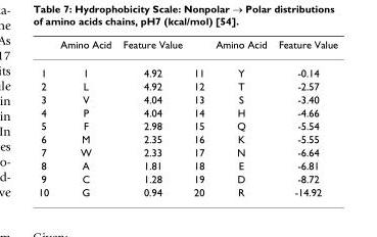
<table><thead><tr><td></td><td>Amino Acid</td><td>Feature Value</td><td></td><td>Amino Acid</td><td>Feature Value</td></tr></thead><tbody><tr><td>1</td><td>I</td><td>4.92</td><td>11</td><td>Y</td><td>-0.14</td></tr><tr><td>2</td><td>L</td><td>4.92</td><td>12</td><td>T</td><td>-2.57</td></tr><tr><td>3</td><td>V</td><td>4.04</td><td>13</td><td>S</td><td>-3.40</td></tr><tr><td>4</td><td>P</td><td>4.04</td><td>14</td><td>H</td><td>-4.66</td></tr><tr><td>5</td><td>F</td><td>2.98</td><td>15</td><td>Q</td><td>-5.54</td></tr><tr><td>6</td><td>M</td><td>2.35</td><td>16</td><td>K</td><td>-5.55</td></tr><tr><td>7</td><td>W</td><td>2.33</td><td>17</td><td>N</td><td>-6.64</td></tr><tr><td>8</td><td>A</td><td>1.81</td><td>18</td><td>E</td><td>-6.81</td></tr><tr><td>9</td><td>C</td><td>1.28</td><td>19</td><td>D</td><td>-8.72</td></tr><tr><td>10</td><td>G</td><td>0.94</td><td>20</td><td>R</td><td>-14.92</td></tr></tbody></table>